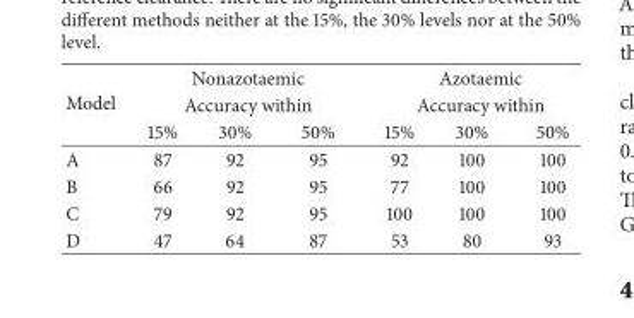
<table><thead><tr><td rowspan="3">Model</td><td rowspan="2" colspan="3">Nonazotaemic Accuracy within</td><td rowspan="2" colspan="3">Azotaemic Accuracy within</td></tr><tr></tr><tr><td>15%</td><td>30%</td><td>50%</td><td>15%</td><td>30%</td><td>50%</td></tr></thead><tbody><tr><td>A</td><td>87</td><td>92</td><td>95</td><td>92</td><td>100</td><td>100</td></tr><tr><td>B</td><td>66</td><td>92</td><td>95</td><td>77</td><td>100</td><td>100</td></tr><tr><td>C</td><td>79</td><td>92</td><td>95</td><td>100</td><td>100</td><td>100</td></tr><tr><td>D</td><td>47</td><td>64</td><td>87</td><td>53</td><td>80</td><td>93</td></tr></tbody></table>